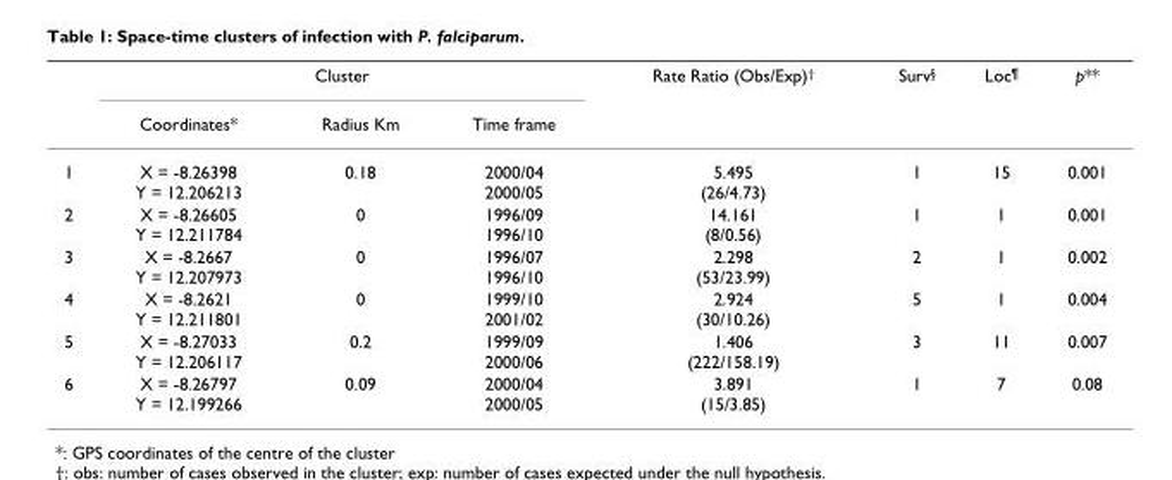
<table><thead><tr><td rowspan="2"></td><td colspan="3">Cluster</td><td rowspan="2">Rate Ratio (Obs/Exp)†</td><td rowspan="2">Surv§</td><td rowspan="2">Loc¶</td><td rowspan="2">p**</td></tr><tr><td>Coordinates*</td><td>Radius Km</td><td>Time frame</td></tr></thead><tbody><tr><td>1</td><td>X = -8.26398 Y = 12.206213</td><td>0.18</td><td>2000/04 2000/05</td><td>5.495 (26/4.73)</td><td>1</td><td>15</td><td>0.001</td></tr><tr><td>2</td><td>X = -8.26605 Y = 12.211784</td><td>0</td><td>1996/09 1996/10</td><td>14.161 (8/0.56)</td><td>1</td><td>1</td><td>0.001</td></tr><tr><td>3</td><td>X = -8.2667 Y = 12.207973</td><td>0</td><td>1996/07 1996/10</td><td>2.298 (53/23.99)</td><td>2</td><td>1</td><td>0.002</td></tr><tr><td>4</td><td>X = -8.2621 Y = 12.211801</td><td>0</td><td>1999/10 2001/02</td><td>2.924 (30/10.26)</td><td>5</td><td>1</td><td>0.004</td></tr><tr><td>5</td><td>X = -8.27033 Y = 12.206117</td><td>0.2</td><td>1999/09 2000/06</td><td>1.406 (222/158.19)</td><td>3</td><td>11</td><td>0.007</td></tr><tr><td>6</td><td>X = -8.26797 Y = 12.199266</td><td>0.09</td><td>2000/04 2000/05</td><td>3.891 (15/3.85)</td><td>1</td><td>7</td><td>0.08</td></tr></tbody></table>